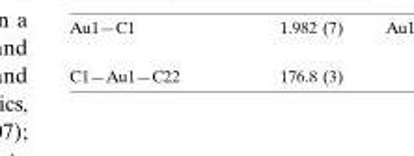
<table><tbody><tr><td>C1—Au1—C22</td><td>176.8 (3)</td></tr></tbody></table>